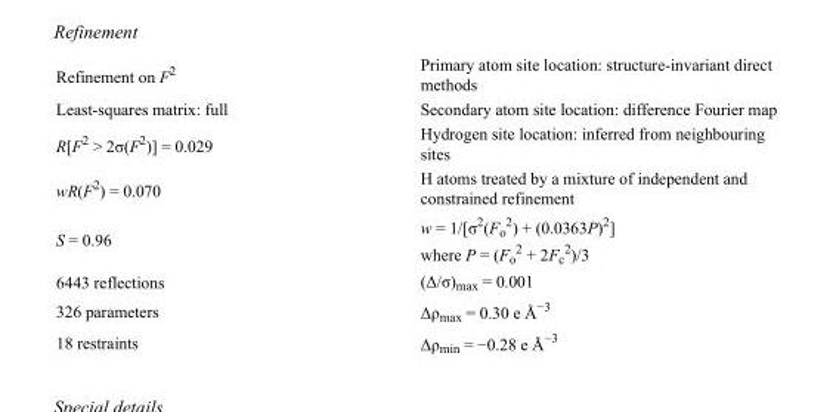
<table><tbody><tr><td>Refinement on F<sup>2</sup></td><td>Primary atom site location: structure-invariant direct methods</td></tr><tr><td>Least-squares matrix: full</td><td>Secondary atom site location: difference Fourier map</td></tr><tr><td>R[F<sup>2</sup> &gt; 2σ(F<sup>2</sup>)] = 0.029</td><td>Hydrogen site location: inferred from neighbouring sites</td></tr><tr><td>wR(F<sup>2</sup>) = 0.070</td><td>H atoms treated by a mixture of independent and constrained refinement</td></tr><tr><td>S = 0.96</td><td>w = 1/[σ<sup>2</sup>(F<sub>o</sub> <sup>2</sup>) + (0.0363P)<sup>2</sup>] where P = (F<sub>o</sub> <sup>2</sup> + 2F<sub>c</sub> <sup>2</sup>)/3</td></tr><tr><td>6443 reflections</td><td>(Δ/σ)<sub>max</sub> = 0.001</td></tr><tr><td>326 parameters</td><td>Δρ<sub>max</sub> = 0.30 e Å<sup>−3</sup></td></tr><tr><td>18 restraints</td><td>Δρ<sub>min</sub> = −0.28 e Å<sup>−3</sup></td></tr></tbody></table>